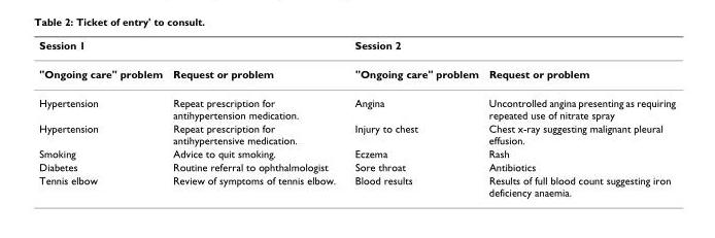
<table><thead><tr><td colspan="2">Session 1</td><td colspan="2">Session 2</td></tr><tr><td>&quot;Ongoing care&quot; problem</td><td>Request or problem</td><td>&quot;Ongoing care&quot; problem</td><td>Request or problem</td></tr></thead><tbody><tr><td>Hypertension</td><td>Repeat prescription for antihypertension medication.</td><td>Angina</td><td>Uncontrolled angina presenting as requiring repeated use of nitrate spray</td></tr><tr><td>Hypertension</td><td>Repeat prescription for antihypertensive medication.</td><td>Injury to chest</td><td>Chest x-ray suggesting malignant pleural effusion.</td></tr><tr><td>Smoking</td><td>Advice to quit smoking.</td><td>Eczema</td><td>Rash</td></tr><tr><td>Diabetes</td><td>Routine referral to ophthalmologist</td><td>Sore throat</td><td>Antibiotics</td></tr><tr><td>Tennis elbow</td><td>Review of symptoms of tennis elbow.</td><td>Blood results</td><td>Results of full blood count suggesting iron deficiency anaemia.</td></tr></tbody></table>